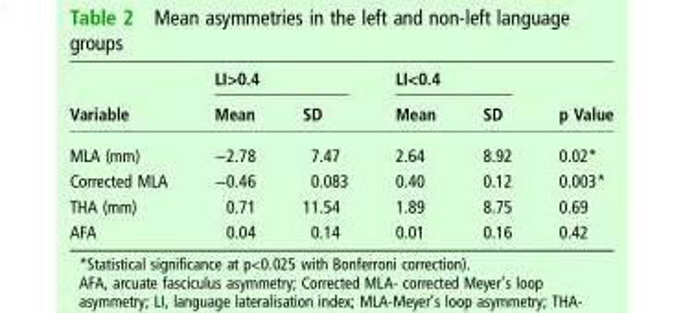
<table><thead><tr><td rowspan="2">Variable</td><td colspan="2">LI&gt;0.4</td><td colspan="2">LI&lt;0.4</td><td rowspan="2">p Value</td></tr><tr><td>Mean</td><td>SD</td><td>Mean</td><td>SD</td></tr></thead><tbody><tr><td>MLA (mm)</td><td>−2.78</td><td>7.47</td><td>2.64</td><td>8.92</td><td>0.02*</td></tr><tr><td>Corrected MLA</td><td>−0.46</td><td>0.083</td><td>0.40</td><td>0.12</td><td>0.003*</td></tr><tr><td>THA (mm)</td><td>0.71</td><td>11.54</td><td>1.89</td><td>8.75</td><td>0.69</td></tr><tr><td>AFA</td><td>0.04</td><td>0.14</td><td>0.01</td><td>0.16</td><td>0.42</td></tr></tbody></table>